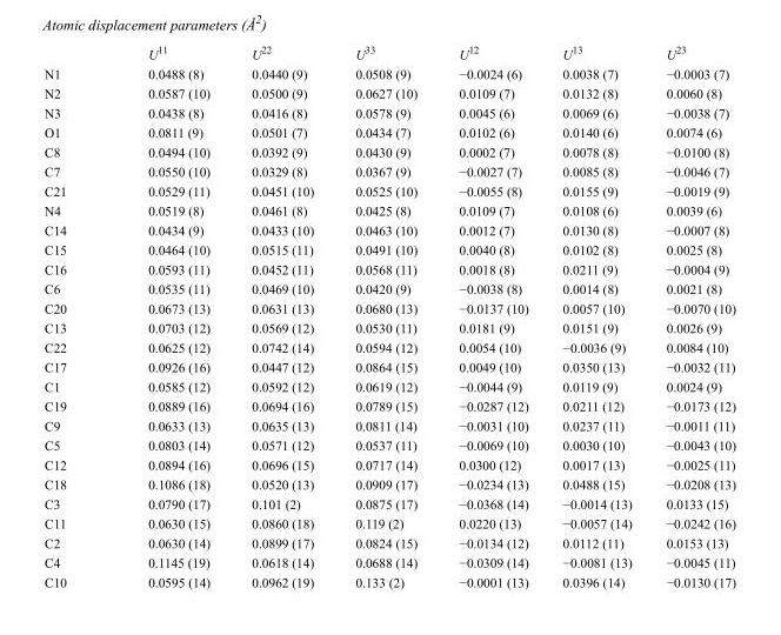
<table><thead><tr><td></td><td>U<sup>11</sup></td><td>U<sup>22</sup></td><td>U<sup>33</sup></td><td>U<sup>12</sup></td><td>U<sup>13</sup></td><td>U<sup>23</sup></td></tr></thead><tbody><tr><td>N1</td><td>0.0488 (8)</td><td>0.0440 (9)</td><td>0.0508 (9)</td><td>−0.0024 (6)</td><td>0.0038 (7)</td><td>−0.0003 (7)</td></tr><tr><td>N2</td><td>0.0587 (10)</td><td>0.0500 (9)</td><td>0.0627 (10)</td><td>0.0109 (7)</td><td>0.0132 (8)</td><td>0.0060 (8)</td></tr><tr><td>N3</td><td>0.0438 (8)</td><td>0.0416 (8)</td><td>0.0578 (9)</td><td>0.0045 (6)</td><td>0.0069 (6)</td><td>−0.0038 (7)</td></tr><tr><td>O1</td><td>0.0811 (9)</td><td>0.0501 (7)</td><td>0.0434 (7)</td><td>0.0102 (6)</td><td>0.0140 (6)</td><td>0.0074 (6)</td></tr><tr><td>C8</td><td>0.0494 (10)</td><td>0.0392 (9)</td><td>0.0430 (9)</td><td>0.0002 (7)</td><td>0.0078 (8)</td><td>−0.0100 (8)</td></tr><tr><td>C7</td><td>0.0550 (10)</td><td>0.0329 (8)</td><td>0.0367 (9)</td><td>−0.0027 (7)</td><td>0.0085 (8)</td><td>−0.0046 (7)</td></tr><tr><td>C21</td><td>0.0529 (11)</td><td>0.0451 (10)</td><td>0.0525 (10)</td><td>−0.0055 (8)</td><td>0.0155 (9)</td><td>−0.0019 (9)</td></tr><tr><td>N4</td><td>0.0519 (8)</td><td>0.0461 (8)</td><td>0.0425 (8)</td><td>0.0109 (7)</td><td>0.0108 (6)</td><td>0.0039 (6)</td></tr><tr><td>C14</td><td>0.0434 (9)</td><td>0.0433 (10)</td><td>0.0463 (10)</td><td>0.0012 (7)</td><td>0.0130 (8)</td><td>−0.0007 (8)</td></tr><tr><td>C15</td><td>0.0464 (10)</td><td>0.0515 (11)</td><td>0.0491 (10)</td><td>0.0040 (8)</td><td>0.0102 (8)</td><td>0.0025 (8)</td></tr><tr><td>C16</td><td>0.0593 (11)</td><td>0.0452 (11)</td><td>0.0568 (11)</td><td>0.0018 (8)</td><td>0.0211 (9)</td><td>−0.0004 (9)</td></tr><tr><td>C6</td><td>0.0535 (11)</td><td>0.0469 (10)</td><td>0.0420 (9)</td><td>−0.0038 (8)</td><td>0.0014 (8)</td><td>0.0021 (8)</td></tr><tr><td>C20</td><td>0.0673 (13)</td><td>0.0631 (13)</td><td>0.0680 (13)</td><td>−0.0137 (10)</td><td>0.0057 (10)</td><td>−0.0070 (10)</td></tr><tr><td>C13</td><td>0.0703 (12)</td><td>0.0569 (12)</td><td>0.0530 (11)</td><td>0.0181 (9)</td><td>0.0151 (9)</td><td>0.0026 (9)</td></tr><tr><td>C22</td><td>0.0625 (12)</td><td>0.0742 (14)</td><td>0.0594 (12)</td><td>0.0054 (10)</td><td>−0.0036 (9)</td><td>0.0084 (10)</td></tr><tr><td>C17</td><td>0.0926 (16)</td><td>0.0447 (12)</td><td>0.0864 (15)</td><td>0.0049 (10)</td><td>0.0350 (13)</td><td>−0.0032 (11)</td></tr><tr><td>C1</td><td>0.0585 (12)</td><td>0.0592 (12)</td><td>0.0619 (12)</td><td>−0.0044 (9)</td><td>0.0119 (9)</td><td>0.0024 (9)</td></tr><tr><td>C19</td><td>0.0889 (16)</td><td>0.0694 (16)</td><td>0.0789 (15)</td><td>−0.0287 (12)</td><td>0.0211 (12)</td><td>−0.0173 (12)</td></tr><tr><td>C9</td><td>0.0633 (13)</td><td>0.0635 (13)</td><td>0.0811 (14)</td><td>−0.0031 (10)</td><td>0.0237 (11)</td><td>−0.0011 (11)</td></tr><tr><td>C5</td><td>0.0803 (14)</td><td>0.0571 (12)</td><td>0.0537 (11)</td><td>−0.0069 (10)</td><td>0.0030 (10)</td><td>−0.0043 (10)</td></tr><tr><td>C12</td><td>0.0894 (16)</td><td>0.0696 (15)</td><td>0.0717 (14)</td><td>0.0300 (12)</td><td>0.0017 (13)</td><td>−0.0025 (11)</td></tr><tr><td>C18</td><td>0.1086 (18)</td><td>0.0520 (13)</td><td>0.0909 (17)</td><td>−0.0234 (13)</td><td>0.0488 (15)</td><td>−0.0208 (13)</td></tr><tr><td>C3</td><td>0.0790 (17)</td><td>0.101 (2)</td><td>0.0875 (17)</td><td>−0.0368 (14)</td><td>−0.0014 (13)</td><td>0.0133 (15)</td></tr><tr><td>C11</td><td>0.0630 (15)</td><td>0.0860 (18)</td><td>0.119 (2)</td><td>0.0220 (13)</td><td>−0.0057 (14)</td><td>−0.0242 (16)</td></tr><tr><td>C2</td><td>0.0630 (14)</td><td>0.0899 (17)</td><td>0.0824 (15)</td><td>−0.0134 (12)</td><td>0.0112 (11)</td><td>0.0153 (13)</td></tr><tr><td>C4</td><td>0.1145 (19)</td><td>0.0618 (14)</td><td>0.0688 (14)</td><td>−0.0309 (14)</td><td>−0.0081 (13)</td><td>−0.0045 (11)</td></tr><tr><td>C10</td><td>0.0595 (14)</td><td>0.0962 (19)</td><td>0.133 (2)</td><td>−0.0001 (13)</td><td>0.0396 (14)</td><td>−0.0130 (17)</td></tr></tbody></table>